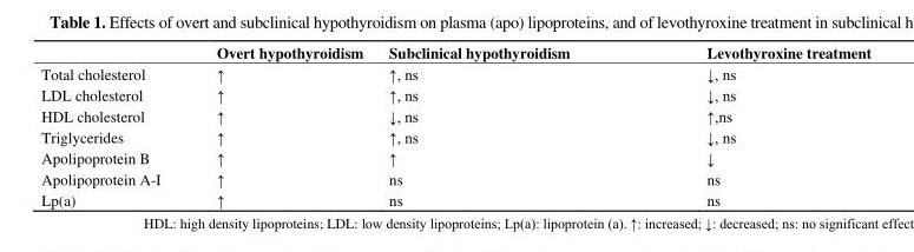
<table><thead><tr><td></td><td>Overt hypothyroidism</td><td>Subclinical hypothyroidism</td><td>Levothyroxine treatment</td></tr></thead><tbody><tr><td>Total cholesterol</td><td>↑</td><td>↑, ns</td><td>↓, ns</td></tr><tr><td>LDL cholesterol</td><td>↑</td><td>↑, ns</td><td>↓, ns</td></tr><tr><td>HDL cholesterol</td><td>↑</td><td>↓, ns</td><td>↑,ns</td></tr><tr><td>Triglycerides</td><td>↑</td><td>↑, ns</td><td>↓, ns</td></tr><tr><td>Apolipoprotein B</td><td>↑</td><td>↑</td><td>↓</td></tr><tr><td>Apolipoprotein A-I</td><td>↑</td><td>ns</td><td>ns</td></tr><tr><td>Lp(a)</td><td>↑</td><td>ns</td><td>ns</td></tr></tbody></table>